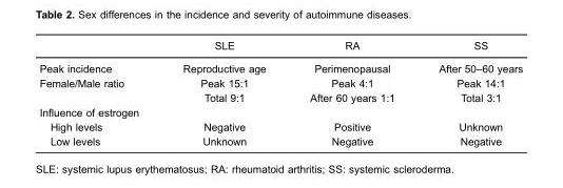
<table><thead><tr><td></td><td>SLE</td><td>RA</td><td>SS</td></tr></thead><tbody><tr><td>Peak incidence</td><td>Reproductive age</td><td>Perimenopausal</td><td>After 50–60 years</td></tr><tr><td rowspan="2">Female/Male ratio</td><td>Peak 15:1</td><td>Peak 4:1</td><td>Peak 14:1</td></tr><tr><td>Total 9:1</td><td>After 60 years 1:1</td><td>Total 3:1</td></tr><tr><td colspan="4">Influence of estrogen</td></tr><tr><td>High levels</td><td>Negative</td><td>Positive</td><td>Unknown</td></tr><tr><td>Low levels</td><td>Unknown</td><td>Negative</td><td>Negative</td></tr></tbody></table>